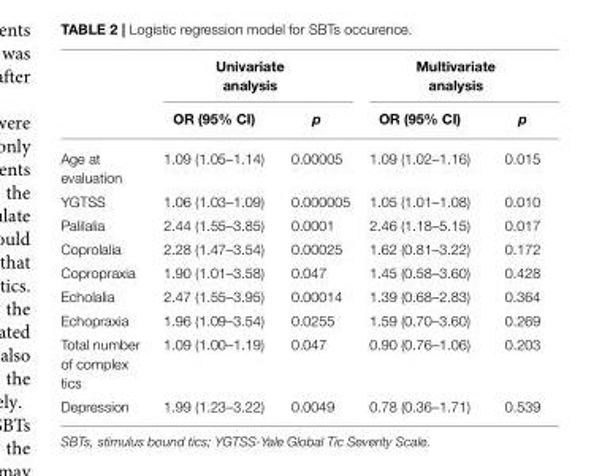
<table><thead><tr><td rowspan="2"></td><td colspan="2">Univariate analysis</td><td colspan="2">Multivariate analysis</td></tr><tr><td>OR (95% CI)</td><td>p</td><td>OR (95% CI)</td><td>p</td></tr></thead><tbody><tr><td>Age at evaluation</td><td>1.09 (1.05–1.14)</td><td>0.00005</td><td>1.09 (1.02–1.16)</td><td>0.015</td></tr><tr><td>YGTSS</td><td>1.06 (1.03–1.09)</td><td>0.000005</td><td>1.05 (1.01–1.08)</td><td>0.010</td></tr><tr><td>Palilalia</td><td>2.44 (1.55–3.85)</td><td>0.0001</td><td>2.46 (1.18–5.15)</td><td>0.017</td></tr><tr><td>Coprolalia</td><td>2.28 (1.47–3.54)</td><td>0.00025</td><td>1.62 (0.81–3.22)</td><td>0.172</td></tr><tr><td>Copropraxia</td><td>1.90 (1.01–3.58)</td><td>0.047</td><td>1.45 (0.58–3.60)</td><td>0.428</td></tr><tr><td>Echolalia</td><td>2.47 (1.55–3.95)</td><td>0.00014</td><td>1.39 (0.68–2.83)</td><td>0.364</td></tr><tr><td>Echopraxia</td><td>1.96 (1.09–3.54)</td><td>0.0255</td><td>1.59 (0.70–3.60)</td><td>0.269</td></tr><tr><td>Total number of complex tics</td><td>1.09 (1.00–1.19)</td><td>0.047</td><td>0.90 (0.76–1.06)</td><td>0.203</td></tr><tr><td>Depression</td><td>1.99 (1.23–3.22)</td><td>0.0049</td><td>0.78 (0.36–1.71)</td><td>0.539</td></tr></tbody></table>